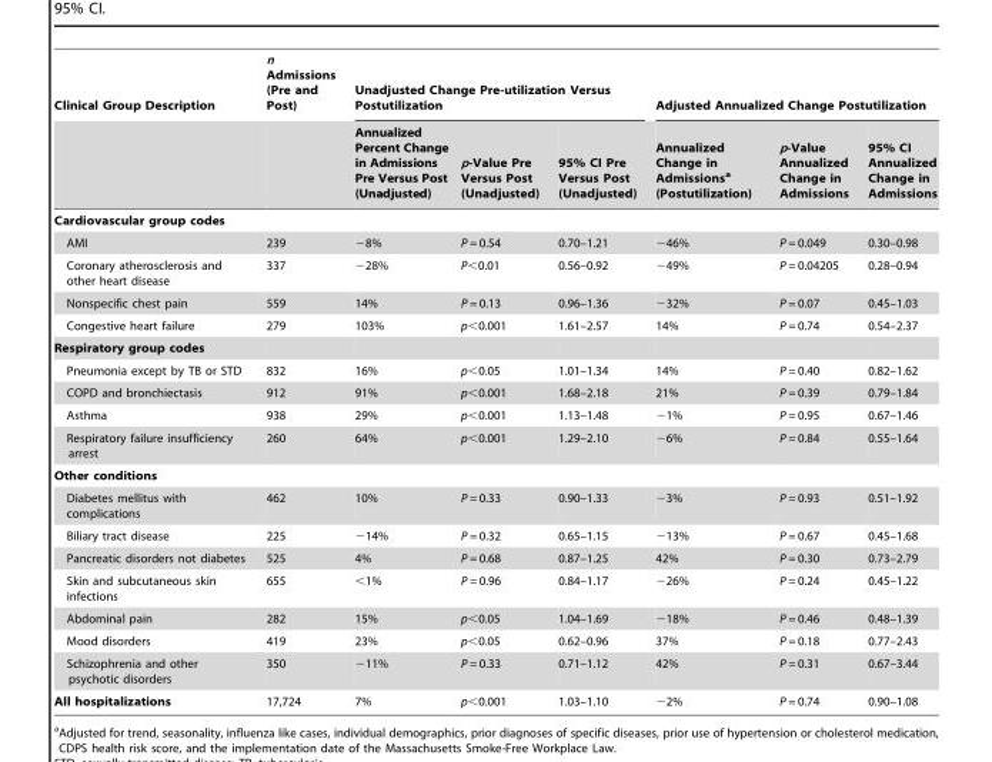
<table><thead><tr><td rowspan="2">Clinical Group Description</td><td rowspan="2">n Admissions (Pre and Post)</td><td colspan="3">Unadjusted Change Pre-utilization Versus Postutilization</td><td colspan="3">Adjusted Annualized Change Postutilization</td></tr><tr><td>Annualized Percent Change in Admissions Pre Versus Post (Unadjusted)</td><td>p-Value Pre Versus Post (Unadjusted)</td><td>95% CI Pre Versus Post (Unadjusted)</td><td>Annualized Change in Admissions<sup>a</sup> (Postutilization)</td><td>p-Value Annualized Change in Admissions</td><td>95% CI Annualized Change in Admissions</td></tr></thead><tbody><tr><td colspan="8">Cardiovascular group codes</td></tr><tr><td>AMI</td><td>239</td><td>−8%</td><td>P = 0.54</td><td>0.70–1.21</td><td>−46%</td><td>P = 0.049</td><td>0.30–0.98</td></tr><tr><td>Coronary atherosclerosis and other heart disease</td><td>337</td><td>−28%</td><td>P&lt;0.01</td><td>0.56–0.92</td><td>−49%</td><td>P = 0.04205</td><td>0.28–0.94</td></tr><tr><td>Nonspecific chest pain</td><td>559</td><td>14%</td><td>P = 0.13</td><td>0.96–1.36</td><td>−32%</td><td>P = 0.07</td><td>0.45–1.03</td></tr><tr><td>Congestive heart failure</td><td>279</td><td>103%</td><td>p&lt;0.001</td><td>1.61–2.57</td><td>14%</td><td>P = 0.74</td><td>0.54–2.37</td></tr><tr><td colspan="8">Respiratory group codes</td></tr><tr><td>Pneumonia except by TB or STD</td><td>832</td><td>16%</td><td>p&lt;0.05</td><td>1.01–1.34</td><td>14%</td><td>P = 0.40</td><td>0.82–1.62</td></tr><tr><td>COPD and bronchiectasis</td><td>912</td><td>91%</td><td>p&lt;0.001</td><td>1.68–2.18</td><td>21%</td><td>P = 0.39</td><td>0.79–1.84</td></tr><tr><td>Asthma</td><td>938</td><td>29%</td><td>p&lt;0.001</td><td>1.13–1.48</td><td>−1%</td><td>P = 0.95</td><td>0.67–1.46</td></tr><tr><td>Respiratory failure insufficiency arrest</td><td>260</td><td>64%</td><td>p&lt;0.001</td><td>1.29–2.10</td><td>−6%</td><td>P = 0.84</td><td>0.55–1.64</td></tr><tr><td colspan="8">Other conditions</td></tr><tr><td>Diabetes mellitus with complications</td><td>462</td><td>10%</td><td>P = 0.33</td><td>0.90–1.33</td><td>−3%</td><td>P = 0.93</td><td>0.51–1.92</td></tr><tr><td>Biliary tract disease</td><td>225</td><td>−14%</td><td>P = 0.32</td><td>0.65–1.15</td><td>−13%</td><td>P = 0.67</td><td>0.45–1.68</td></tr><tr><td>Pancreatic disorders not diabetes</td><td>525</td><td>4%</td><td>P = 0.68</td><td>0.87–1.25</td><td>42%</td><td>P = 0.30</td><td>0.73–2.79</td></tr><tr><td>Skin and subcutaneous skin infections</td><td>655</td><td>&lt;1%</td><td>P = 0.96</td><td>0.84–1.17</td><td>−26%</td><td>P = 0.24</td><td>0.45–1.22</td></tr><tr><td>Abdominal pain</td><td>282</td><td>15%</td><td>p&lt;0.05</td><td>1.04–1.69</td><td>−18%</td><td>P = 0.46</td><td>0.48–1.39</td></tr><tr><td>Mood disorders</td><td>419</td><td>23%</td><td>p&lt;0.05</td><td>0.62–0.96</td><td>37%</td><td>P = 0.18</td><td>0.77–2.43</td></tr><tr><td>Schizophrenia and other psychotic disorders</td><td>350</td><td>−11%</td><td>P = 0.33</td><td>0.71–1.12</td><td>42%</td><td>P = 0.31</td><td>0.67–3.44</td></tr><tr><td>All hospitalizations</td><td>17,724</td><td>7%</td><td>p&lt;0.001</td><td>1.03–1.10</td><td>−2%</td><td>P = 0.74</td><td>0.90–1.08</td></tr></tbody></table>